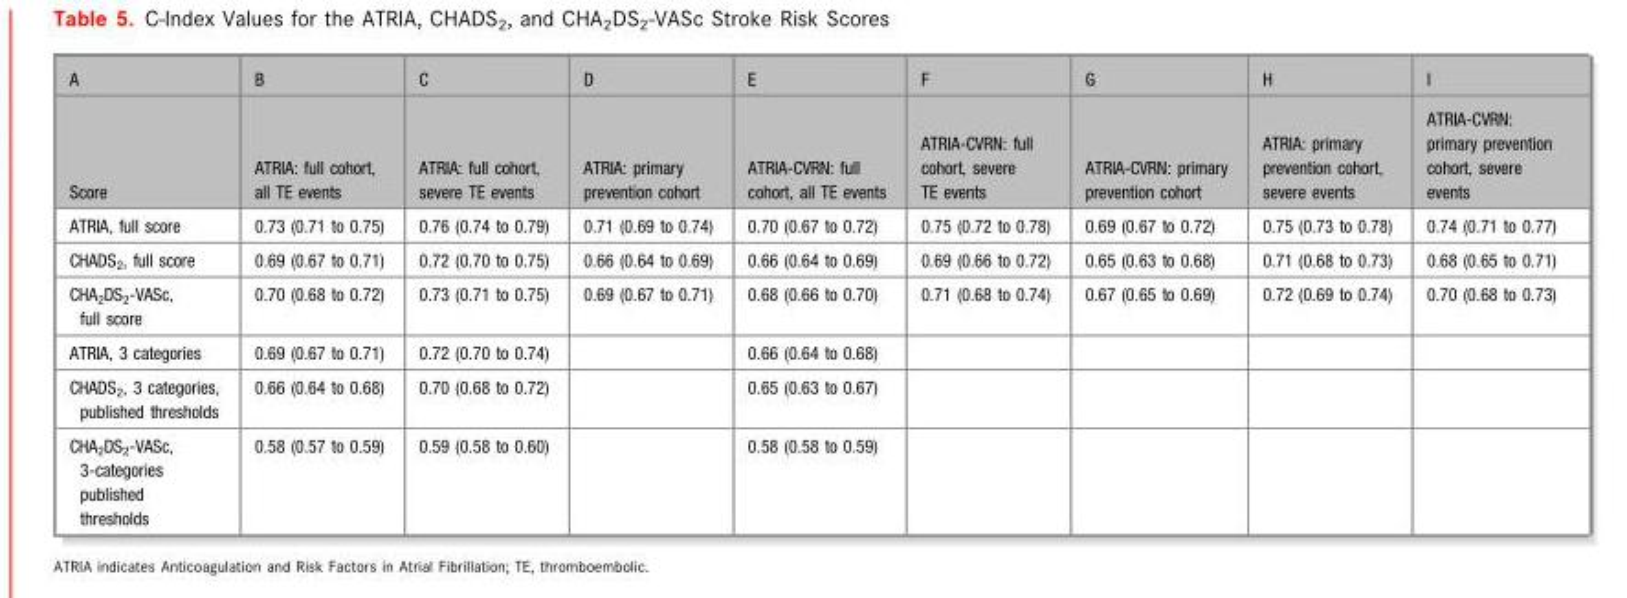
<table><thead><tr><td rowspan="2">A Score</td><td rowspan="2">B ATRIA: full cohort, all TE events</td><td rowspan="2">C ATRIA: full cohort, severe TE events</td><td rowspan="2">D ATRIA: primary prevention cohort</td><td rowspan="2">E ATRIA-CVRN: full cohort, all TE events</td><td rowspan="2">F ATRIA-CVRN: full cohort, severe TE events</td><td rowspan="2">G ATRIA-CVRN: primary prevention cohort</td><td rowspan="2">H ATRIA: primary prevention cohort, severe events</td><td rowspan="2">I ATRIA-CVRN: primary prevention cohort, severe events</td></tr><tr></tr></thead><tbody><tr><td>ATRIA, full score</td><td>0.73 (0.71 to 0.75)</td><td>0.76 (0.74 to 0.79)</td><td>0.71 (0.69 to 0.74)</td><td>0.70 (0.67 to 0.72)</td><td>0.75 (0.72 to 0.78)</td><td>0.69 (0.67 to 0.72)</td><td>0.75 (0.73 to 0.78)</td><td>0.74 (0.71 to 0.77)</td></tr><tr><td>CHADS<sub>2</sub>, full score</td><td>0.69 (0.67 to 0.71)</td><td>0.72 (0.70 to 0.75)</td><td>0.66 (0.64 to 0.69)</td><td>0.66 (0.64 to 0.69)</td><td>0.69 (0.66 to 0.72)</td><td>0.65 (0.63 to 0.68)</td><td>0.71 (0.68 to 0.73)</td><td>0.68 (0.65 to 0.71)</td></tr><tr><td>CHA<sub>2</sub>DS<sub>2</sub>-VASc, full score</td><td>0.70 (0.68 to 0.72)</td><td>0.73 (0.71 to 0.75)</td><td>0.69 (0.67 to 0.71)</td><td>0.68 (0.66 to 0.70)</td><td>0.71 (0.68 to 0.74)</td><td>0.67 (0.65 to 0.69)</td><td>0.72 (0.69 to 0.74)</td><td>0.70 (0.68 to 0.73)</td></tr><tr><td>ATRIA, 3 categories</td><td>0.69 (0.67 to 0.71)</td><td>0.72 (0.70 to 0.74)</td><td></td><td>0.66 (0.64 to 0.68)</td><td></td><td></td><td></td><td></td></tr><tr><td>CHADS<sub>2</sub>, 3 categories, published thresholds</td><td>0.66 (0.64 to 0.68)</td><td>0.70 (0.68 to 0.72)</td><td></td><td>0.65 (0.63 to 0.67)</td><td></td><td></td><td></td><td></td></tr><tr><td>CHA<sub>2</sub>DS<sub>2</sub>-VASc, 3-categories published thresholds</td><td>0.58 (0.57 to 0.59)</td><td>0.59 (0.58 to 0.60)</td><td></td><td>0.58 (0.58 to 0.59)</td><td></td><td></td><td></td><td></td></tr></tbody></table>